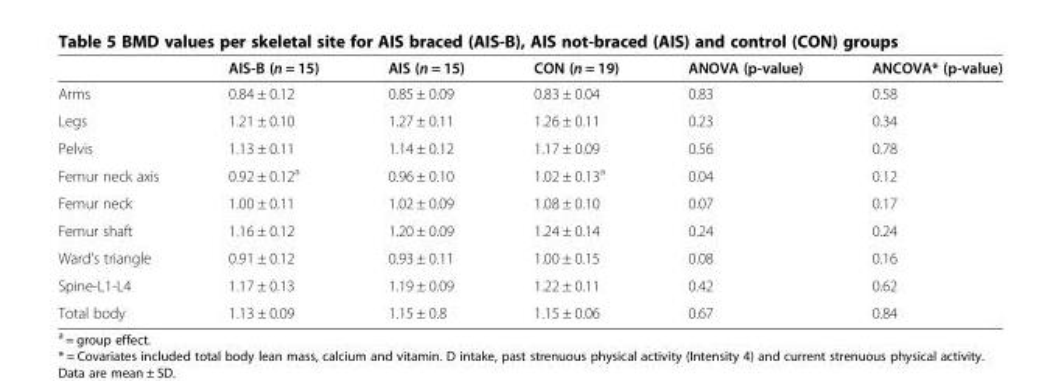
<table><thead><tr><td></td><td>AIS-B (n = 15)</td><td>AIS (n = 15)</td><td>CON (n = 19)</td><td>ANOVA (p-value)</td><td>ANCOVA* (p-value)</td></tr></thead><tbody><tr><td>Arms</td><td>0.84 ± 0.12</td><td>0.85 ± 0.09</td><td>0.83 ± 0.04</td><td>0.83</td><td>0.58</td></tr><tr><td>Legs</td><td>1.21 ± 0.10</td><td>1.27 ± 0.11</td><td>1.26 ± 0.11</td><td>0.23</td><td>0.34</td></tr><tr><td>Pelvis</td><td>1.13 ± 0.11</td><td>1.14 ± 0.12</td><td>1.17 ± 0.09</td><td>0.56</td><td>0.78</td></tr><tr><td>Femur neck axis</td><td>0.92 ± 0.12<sup>a</sup></td><td>0.96 ± 0.10</td><td>1.02 ± 0.13<sup>a</sup></td><td>0.04</td><td>0.12</td></tr><tr><td>Femur neck</td><td>1.00 ± 0.11</td><td>1.02 ± 0.09</td><td>1.08 ± 0.10</td><td>0.07</td><td>0.17</td></tr><tr><td>Femur shaft</td><td>1.16 ± 0.12</td><td>1.20 ± 0.09</td><td>1.24 ± 0.14</td><td>0.24</td><td>0.24</td></tr><tr><td>Ward’s triangle</td><td>0.91 ± 0.12</td><td>0.93 ± 0.11</td><td>1.00 ± 0.15</td><td>0.08</td><td>0.16</td></tr><tr><td>Spine-L1-L4</td><td>1.17 ± 0.13</td><td>1.19 ± 0.09</td><td>1.22 ± 0.11</td><td>0.42</td><td>0.62</td></tr><tr><td>Total body</td><td>1.13 ± 0.09</td><td>1.15 ± 0.8</td><td>1.15 ± 0.06</td><td>0.67</td><td>0.84</td></tr></tbody></table>